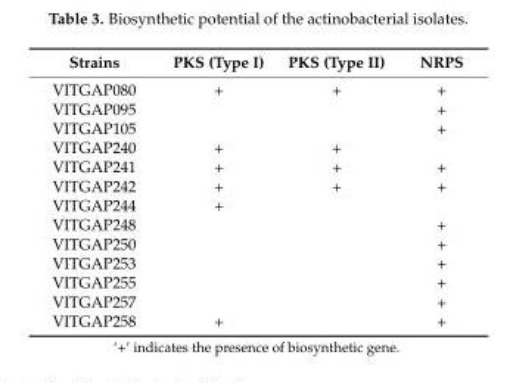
<table><thead><tr><td>Strains</td><td>PKS (Type I)</td><td>PKS (Type II)</td><td>NRPS</td></tr></thead><tbody><tr><td>VITGAP080</td><td>+</td><td>+</td><td>+</td></tr><tr><td>VITGAP095</td><td></td><td></td><td>+</td></tr><tr><td>VITGAP105</td><td></td><td></td><td>+</td></tr><tr><td>VITGAP240</td><td>+</td><td>+</td><td></td></tr><tr><td>VITGAP241</td><td>+</td><td>+</td><td>+</td></tr><tr><td>VITGAP242</td><td>+</td><td>+</td><td>+</td></tr><tr><td>VITGAP244</td><td>+</td><td></td><td></td></tr><tr><td>VITGAP248</td><td></td><td></td><td>+</td></tr><tr><td>VITGAP250</td><td></td><td></td><td>+</td></tr><tr><td>VITGAP253</td><td></td><td></td><td>+</td></tr><tr><td>VITGAP255</td><td></td><td></td><td>+</td></tr><tr><td>VITGAP257</td><td></td><td></td><td>+</td></tr><tr><td>VITGAP258</td><td>+</td><td></td><td>+</td></tr></tbody></table>